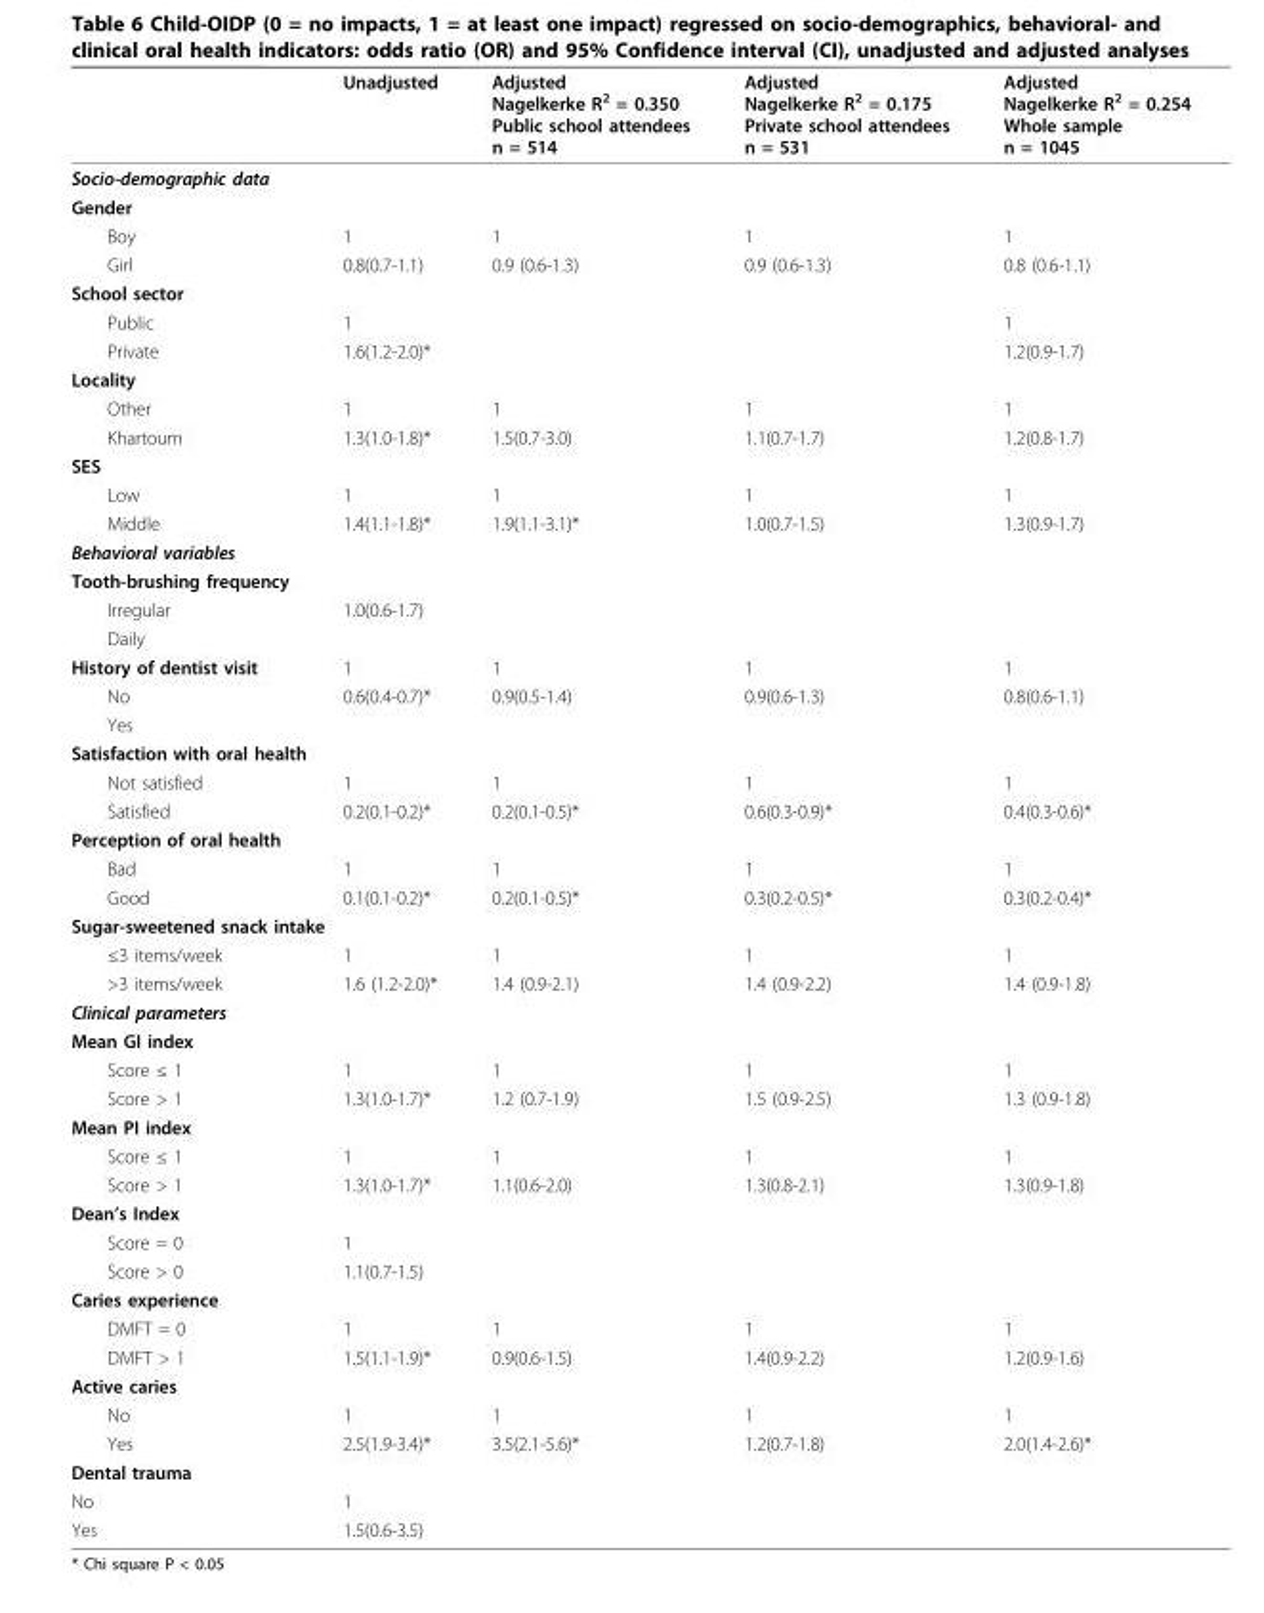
<table><thead><tr><td></td><td>Unadjusted</td><td>Adjusted Nagelkerke R<sup>2</sup> = 0.350 Public school attendees n = 514</td><td>Adjusted Nagelkerke R<sup>2</sup> = 0.175 Private school attendees n = 531</td><td>Adjusted Nagelkerke R<sup>2</sup> = 0.254 Whole sample n = 1045</td></tr></thead><tbody><tr><td colspan="5">Socio-demographic data</td></tr><tr><td colspan="5">Gender</td></tr><tr><td>Boy</td><td>1</td><td>1</td><td>1</td><td>1</td></tr><tr><td>Girl</td><td>0.8(0.7-1.1)</td><td>0.9 (0.6-1.3)</td><td>0.9 (0.6-1.3)</td><td>0.8 (0.6-1.1)</td></tr><tr><td colspan="5">School sector</td></tr><tr><td>Public</td><td>1</td><td></td><td></td><td>1</td></tr><tr><td>Private</td><td>1.6(1.2-2.0)*</td><td></td><td></td><td>1.2(0.9-1.7)</td></tr><tr><td colspan="5">Locality</td></tr><tr><td>Other</td><td>1</td><td>1</td><td>1</td><td>1</td></tr><tr><td>Khartoum</td><td>1.3(1.0-1.8)*</td><td>1.5(0.7-3.0)</td><td>1.1(0.7-1.7)</td><td>1.2(0.8-1.7)</td></tr><tr><td colspan="5">SES</td></tr><tr><td>Low</td><td>1</td><td>1</td><td>1</td><td>1</td></tr><tr><td>Middle</td><td>1.4(1.1-1.8)*</td><td>1.9(1.1-3.1)*</td><td>1.0(0.7-1.5)</td><td>1.3(0.9-1.7)</td></tr><tr><td colspan="5">Behavioral variables</td></tr><tr><td colspan="5">Tooth-brushing frequency</td></tr><tr><td>Irregular</td><td>1.0(0.6-1.7)</td><td></td><td></td><td></td></tr><tr><td colspan="5">Daily</td></tr><tr><td>History of dentist visit</td><td>1</td><td>1</td><td>1</td><td>1</td></tr><tr><td>No</td><td>0.6(0.4-0.7)*</td><td>0.9(0.5-1.4)</td><td>0.9(0.6-1.3)</td><td>0.8(0.6-1.1)</td></tr><tr><td colspan="5">Yes</td></tr><tr><td colspan="5">Satisfaction with oral health</td></tr><tr><td>Not satisfied</td><td>1</td><td>1</td><td>1</td><td>1</td></tr><tr><td>Satisfied</td><td>0.2(0.1-0.2)*</td><td>0.2(0.1-0.5)*</td><td>0.6(0.3-0.9)*</td><td>0.4(0.3-0.6)*</td></tr><tr><td colspan="5">Perception of oral health</td></tr><tr><td>Bad</td><td>1</td><td>1</td><td>1</td><td>1</td></tr><tr><td>Good</td><td>0.1(0.1-0.2)*</td><td>0.2(0.1-0.5)*</td><td>0.3(0.2-0.5)*</td><td>0.3(0.2-0.4)*</td></tr><tr><td colspan="5">Sugar-sweetened snack intake</td></tr><tr><td>≤3 items/week</td><td>1</td><td>1</td><td>1</td><td>1</td></tr><tr><td>&gt;3 items/week</td><td>1.6 (1.2-2.0)*</td><td>1.4 (0.9-2.1)</td><td>1.4 (0.9-2.2)</td><td>1.4 (0.9-1.8)</td></tr><tr><td colspan="5">Clinical parameters</td></tr><tr><td colspan="5">Mean GI index</td></tr><tr><td>Score ≤ 1</td><td>1</td><td>1</td><td>1</td><td>1</td></tr><tr><td>Score &gt; 1</td><td>1.3(1.0-1.7)*</td><td>1.2 (0.7-1.9)</td><td>1.5 (0.9-2.5)</td><td>1.3 (0.9-1.8)</td></tr><tr><td colspan="5">Mean PI index</td></tr><tr><td>Score ≤ 1</td><td>1</td><td>1</td><td>1</td><td>1</td></tr><tr><td>Score &gt; 1</td><td>1.3(1.0-1.7)*</td><td>1.1(0.6-2.0)</td><td>1.3(0.8-2.1)</td><td>1.3(0.9-1.8)</td></tr><tr><td colspan="5">Dean’s Index</td></tr><tr><td>Score = 0</td><td>1</td><td></td><td></td><td></td></tr><tr><td>Score &gt; 0</td><td>1.1(0.7-1.5)</td><td></td><td></td><td></td></tr><tr><td colspan="5">Caries experience</td></tr><tr><td>DMFT = 0</td><td>1</td><td>1</td><td>1</td><td>1</td></tr><tr><td>DMFT &gt; 1</td><td>1.5(1.1-1.9)*</td><td>0.9(0.6-1.5)</td><td>1.4(0.9-2.2)</td><td>1.2(0.9-1.6)</td></tr><tr><td colspan="5">Active caries</td></tr><tr><td>No</td><td>1</td><td>1</td><td>1</td><td>1</td></tr><tr><td>Yes</td><td>2.5(1.9-3.4)*</td><td>3.5(2.1-5.6)*</td><td>1.2(0.7-1.8)</td><td>2.0(1.4-2.6)*</td></tr><tr><td colspan="5">Dental trauma</td></tr><tr><td>No</td><td>1</td><td></td><td></td><td></td></tr><tr><td>Yes</td><td>1.5(0.6-3.5)</td><td></td><td></td><td></td></tr></tbody></table>